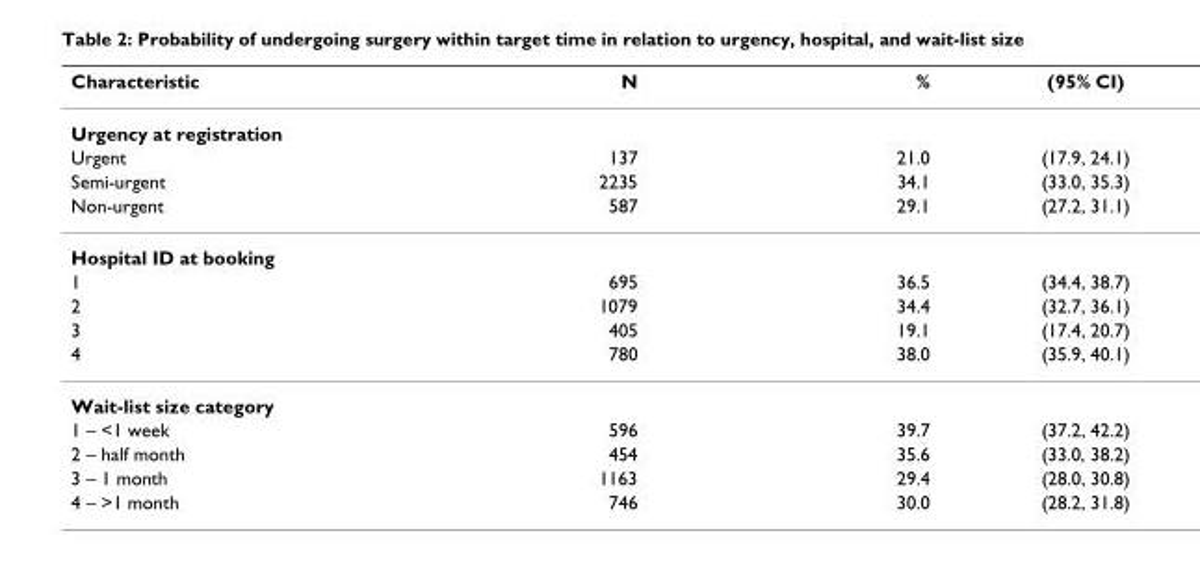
<table><thead><tr><td>Characteristic</td><td>N</td><td>%</td><td>(95% CI)</td></tr></thead><tbody><tr><td colspan="4">Urgency at registration</td></tr><tr><td>Urgent</td><td>137</td><td>21.0</td><td>(17.9, 24.1)</td></tr><tr><td>Semi-urgent</td><td>2235</td><td>34.1</td><td>(33.0, 35.3)</td></tr><tr><td>Non-urgent</td><td>587</td><td>29.1</td><td>(27.2, 31.1)</td></tr><tr><td colspan="4">Hospital ID at booking</td></tr><tr><td>1</td><td>695</td><td>36.5</td><td>(34.4, 38.7)</td></tr><tr><td>2</td><td>1079</td><td>34.4</td><td>(32.7, 36.1)</td></tr><tr><td>3</td><td>405</td><td>19.1</td><td>(17.4, 20.7)</td></tr><tr><td>4</td><td>780</td><td>38.0</td><td>(35.9, 40.1)</td></tr><tr><td colspan="4">Wait-list size category</td></tr><tr><td>1 – &lt;1 week</td><td>596</td><td>39.7</td><td>(37.2, 42.2)</td></tr><tr><td>2 – half month</td><td>454</td><td>35.6</td><td>(33.0, 38.2)</td></tr><tr><td>3 – 1 month</td><td>1163</td><td>29.4</td><td>(28.0, 30.8)</td></tr><tr><td>4 – &gt;1 month</td><td>746</td><td>30.0</td><td>(28.2, 31.8)</td></tr></tbody></table>